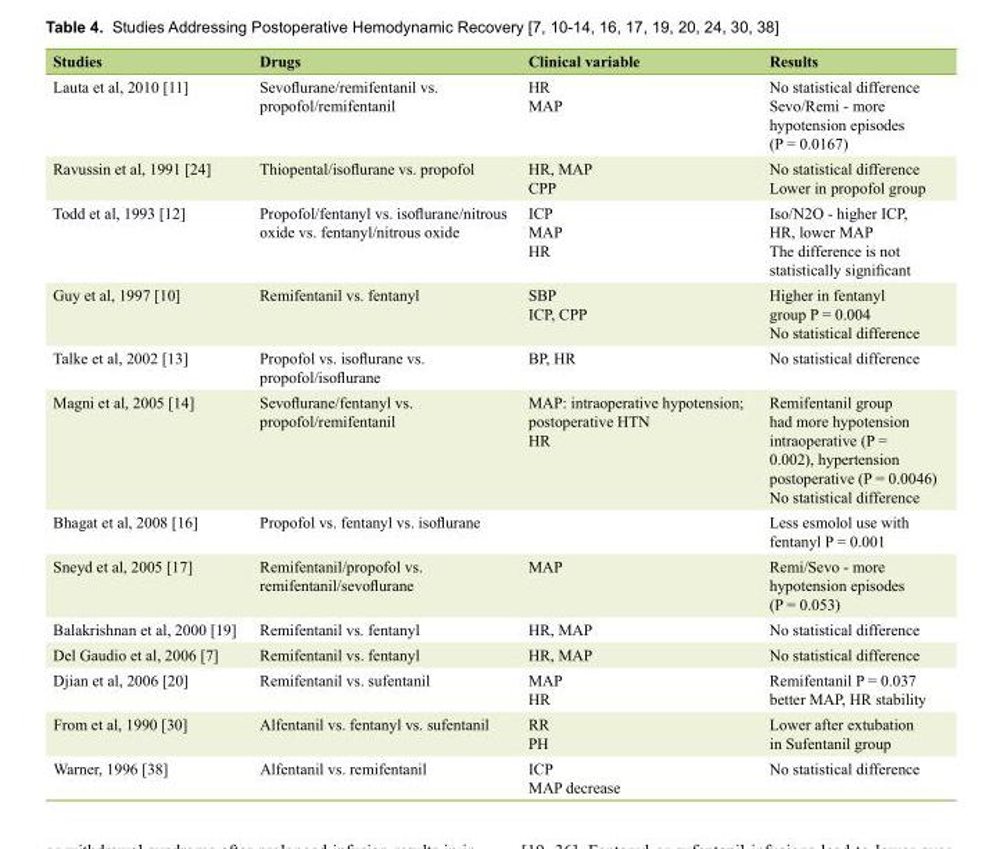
<table><thead><tr><td>Studies</td><td>Drugs</td><td>Clinical variable</td><td>Results</td></tr></thead><tbody><tr><td>Lauta et al, 2010 [11]</td><td>Sevoflurane/remifentanil vs. propofol/remifentanil</td><td>HR MAP</td><td>No statistical difference Sevo/Remi - more hypotension episodes (P = 0.0167)</td></tr><tr><td>Ravussin et al, 1991 [24]</td><td>Thiopental/isoflurane vs. propofol</td><td>HR, MAP CPP</td><td>No statistical difference Lower in propofol group</td></tr><tr><td>Todd et al, 1993 [12]</td><td>Propofol/fentanyl vs. isoflurane/nitrous oxide vs. fentanyl/nitrous oxide</td><td>ICP MAP HR</td><td>Iso/N2O - higher ICP, HR, lower MAP The difference is not statistically significant</td></tr><tr><td>Guy et al, 1997 [10]</td><td>Remifentanil vs. fentanyl</td><td>SBP ICP, CPP</td><td>Higher in fentanyl group P = 0.004 No statistical difference</td></tr><tr><td>Talke et al, 2002 [13]</td><td>Propofol vs. isoflurane vs. propofol/isoflurane</td><td>BP, HR</td><td>No statistical difference</td></tr><tr><td>Magni et al, 2005 [14]</td><td>Sevoflurane/fentanyl vs. propofol/remifentanil</td><td>MAP: intraoperative hypotension; postoperative HTN HR</td><td>Remifentanil group had more hypotension intraoperative (P = 0.002), hypertension postoperative (P = 0.0046) No statistical difference</td></tr><tr><td>Bhagat et al, 2008 [16]</td><td>Propofol vs. fentanyl vs. isoflurane</td><td></td><td>Less esmolol use with fentanyl P = 0.001</td></tr><tr><td>Sneyd et al, 2005 [17]</td><td>Remifentanil/propofol vs. remifentanil/sevoflurane</td><td>MAP</td><td>Remi/Sevo - more hypotension episodes (P = 0.053)</td></tr><tr><td>Balakrishnan et al, 2000 [19]</td><td>Remifentanil vs. fentanyl</td><td>HR, MAP</td><td>No statistical difference</td></tr><tr><td>Del Gaudio et al, 2006 [7]</td><td>Remifentanil vs. fentanyl</td><td>HR, MAP</td><td>No statistical difference</td></tr><tr><td>Djian et al, 2006 [20]</td><td>Remifentanil vs. sufentanil</td><td>MAP HR</td><td>Remifentanil P = 0.037 better MAP, HR stability</td></tr><tr><td>From et al, 1990 [30]</td><td>Alfentanil vs. fentanyl vs. sufentanil</td><td>RR PH</td><td>Lower after extubation in Sufentanil group</td></tr><tr><td>Warner, 1996 [38]</td><td>Alfentanil vs. remifentanil</td><td>ICP MAP decrease</td><td>No statistical difference</td></tr></tbody></table>